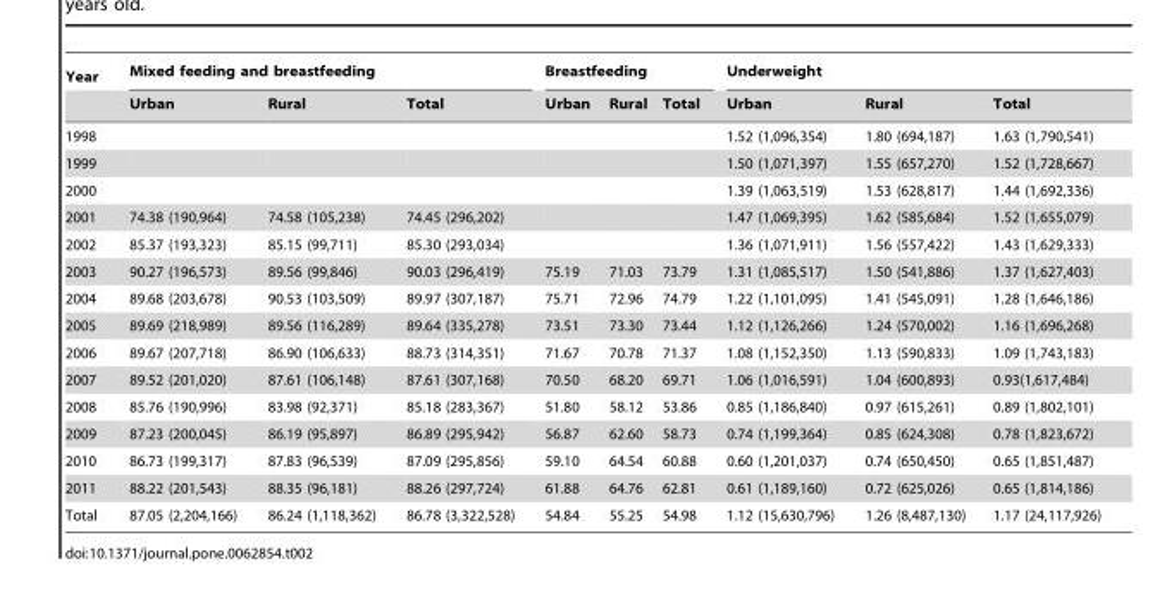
<table><thead><tr><td rowspan="2">Year</td><td colspan="3">Mixed feeding and breastfeeding</td><td colspan="3">Breastfeeding</td><td colspan="3">Underweight</td></tr><tr><td>Urban</td><td>Rural</td><td>Total</td><td>Urban</td><td>Rural</td><td>Total</td><td>Urban</td><td>Rural</td><td>Total</td></tr></thead><tbody><tr><td>1998</td><td></td><td></td><td></td><td></td><td></td><td></td><td>1.52 (1,096,354)</td><td>1.80 (694,187)</td><td>1.63 (1,790,541)</td></tr><tr><td>1999</td><td></td><td></td><td></td><td></td><td></td><td></td><td>1.50 (1,071,397)</td><td>1.55 (657,270)</td><td>1.52 (1,728,667)</td></tr><tr><td>2000</td><td></td><td></td><td></td><td></td><td></td><td></td><td>1.39 (1,063,519)</td><td>1.53 (628,817)</td><td>1.44 (1,692,336)</td></tr><tr><td>2001</td><td>74.38 (190,964)</td><td>74.58 (105,238)</td><td>74.45 (296,202)</td><td></td><td></td><td></td><td>1.47 (1,069,395)</td><td>1.62 (585,684)</td><td>1.52 (1,655,079)</td></tr><tr><td>2002</td><td>85.37 (193,323)</td><td>85.15 (99,711)</td><td>85.30 (293,034)</td><td></td><td></td><td></td><td>1.36 (1,071,911)</td><td>1.56 (557,422)</td><td>1.43 (1,629,333)</td></tr><tr><td>2003</td><td>90.27 (196,573)</td><td>89.56 (99,846)</td><td>90.03 (296,419)</td><td>75.19</td><td>71.03</td><td>73.79</td><td>1.31 (1,085,517)</td><td>1.50 (541,886)</td><td>1.37 (1,627,403)</td></tr><tr><td>2004</td><td>89.68 (203,678)</td><td>90.53 (103,509)</td><td>89.97 (307,187)</td><td>75.71</td><td>72.96</td><td>74.79</td><td>1.22 (1,101,095)</td><td>1.41 (545,091)</td><td>1.28 (1,646,186)</td></tr><tr><td>2005</td><td>89.69 (218,989)</td><td>89.56 (116,289)</td><td>89.64 (335,278)</td><td>73.51</td><td>73.30</td><td>73.44</td><td>1.12 (1,126,266)</td><td>1.24 (570,002)</td><td>1.16 (1,696,268)</td></tr><tr><td>2006</td><td>89.67 (207,718)</td><td>86.90 (106,633)</td><td>88.73 (314,351)</td><td>71.67</td><td>70.78</td><td>71.37</td><td>1.08 (1,152,350)</td><td>1.13 (590,833)</td><td>1.09 (1,743,183)</td></tr><tr><td>2007</td><td>89.52 (201,020)</td><td>87.61 (106,148)</td><td>87.61 (307,168)</td><td>70.50</td><td>68.20</td><td>69.71</td><td>1.06 (1,016,591)</td><td>1.04 (600,893)</td><td>0.93(1,617,484)</td></tr><tr><td>2008</td><td>85.76 (190,996)</td><td>83.98 (92,371)</td><td>85.18 (283,367)</td><td>51.80</td><td>58.12</td><td>53.86</td><td>0.85 (1,186,840)</td><td>0.97 (615,261)</td><td>0.89 (1,802,101)</td></tr><tr><td>2009</td><td>87.23 (200,045)</td><td>86.19 (95,897)</td><td>86.89 (295,942)</td><td>56.87</td><td>62.60</td><td>58.73</td><td>0.74 (1,199,364)</td><td>0.85 (624,308)</td><td>0.78 (1,823,672)</td></tr><tr><td>2010</td><td>86.73 (199,317)</td><td>87.83 (96,539)</td><td>87.09 (295,856)</td><td>59.10</td><td>64.54</td><td>60.88</td><td>0.60 (1,201,037)</td><td>0.74 (650,450)</td><td>0.65 (1,851,487)</td></tr><tr><td>2011</td><td>88.22 (201,543)</td><td>88.35 (96,181)</td><td>88.26 (297,724)</td><td>61.88</td><td>64.76</td><td>62.81</td><td>0.61 (1,189,160)</td><td>0.72 (625,026)</td><td>0.65 (1,814,186)</td></tr><tr><td>Total</td><td>87.05 (2,204,166)</td><td>86.24 (1,118,362)</td><td>86.78 (3,322,528)</td><td>54.84</td><td>55.25</td><td>54.98</td><td>1.12 (15,630,796)</td><td>1.26 (8,487,130)</td><td>1.17 (24,117,926)</td></tr></tbody></table>